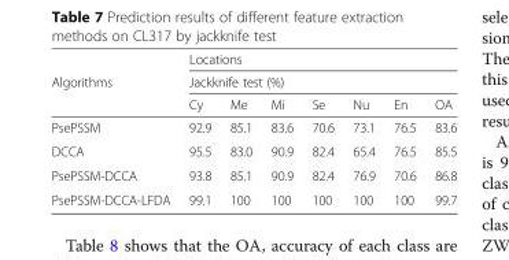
<table><thead><tr><td rowspan="3">Algorithms</td><td rowspan="2" colspan="7">Locations Jackknife test (%)</td></tr><tr></tr><tr><td>Cy</td><td>Me</td><td>Mi</td><td>Se</td><td>Nu</td><td>En</td><td>OA</td></tr></thead><tbody><tr><td>PsePSSM</td><td>92.9</td><td>85.1</td><td>83.6</td><td>70.6</td><td>73.1</td><td>76.5</td><td>83.6</td></tr><tr><td>DCCA</td><td>95.5</td><td>83.0</td><td>90.9</td><td>82.4</td><td>65.4</td><td>76.5</td><td>85.5</td></tr><tr><td>PsePSSM-DCCA</td><td>93.8</td><td>85.1</td><td>90.9</td><td>82.4</td><td>76.9</td><td>70.6</td><td>86.8</td></tr><tr><td>PsePSSM-DCCA-LFDA</td><td>99.1</td><td>100</td><td>100</td><td>100</td><td>100</td><td>100</td><td>99.7</td></tr></tbody></table>